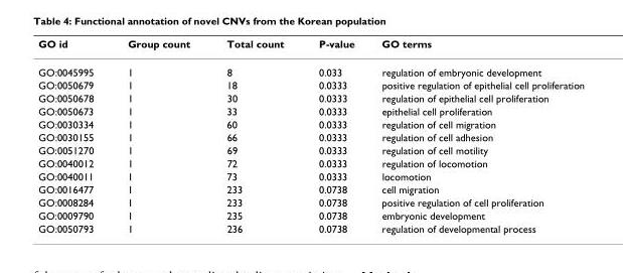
<table><thead><tr><td>GO id</td><td>Group count</td><td>Total count</td><td>P-value</td><td>GO terms</td></tr></thead><tbody><tr><td>GO:0045995</td><td>1</td><td>8</td><td>0.033</td><td>regulation of embryonic development</td></tr><tr><td>GO:0050679</td><td>1</td><td>18</td><td>0.0333</td><td>positive regulation of epithelial cell proliferation</td></tr><tr><td>GO:0050678</td><td>1</td><td>30</td><td>0.0333</td><td>regulation of epithelial cell proliferation</td></tr><tr><td>GO:0050673</td><td>1</td><td>33</td><td>0.0333</td><td>epithelial cell proliferation</td></tr><tr><td>GO:0030334</td><td>1</td><td>60</td><td>0.0333</td><td>regulation of cell migration</td></tr><tr><td>GO:0030155</td><td>1</td><td>66</td><td>0.0333</td><td>regulation of cell adhesion</td></tr><tr><td>GO:0051270</td><td>1</td><td>69</td><td>0.0333</td><td>regulation of cell motility</td></tr><tr><td>GO:0040012</td><td>1</td><td>72</td><td>0.0333</td><td>regulation of locomotion</td></tr><tr><td>GO:0040011</td><td>1</td><td>73</td><td>0.0333</td><td>locomotion</td></tr><tr><td>GO:0016477</td><td>1</td><td>233</td><td>0.0738</td><td>cell migration</td></tr><tr><td>GO:0008284</td><td>1</td><td>233</td><td>0.0738</td><td>positive regulation of cell proliferation</td></tr><tr><td>GO:0009790</td><td>1</td><td>235</td><td>0.0738</td><td>embryonic development</td></tr><tr><td>GO:0050793</td><td>1</td><td>236</td><td>0.0738</td><td>regulation of developmental process</td></tr></tbody></table>